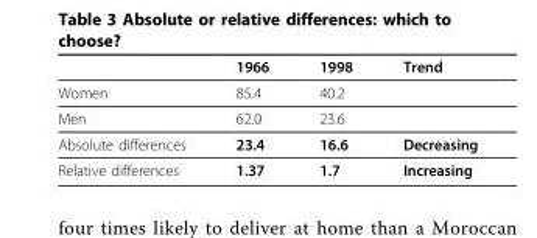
<table><thead><tr><td></td><td>1966</td><td>1998</td><td>Trend</td></tr></thead><tbody><tr><td>Women</td><td>85.4</td><td>40.2</td><td></td></tr><tr><td>Men</td><td>62.0</td><td>23.6</td><td></td></tr><tr><td>Absolute differences</td><td>23.4</td><td>16.6</td><td>Decreasing</td></tr><tr><td>Relative differences</td><td>1.37</td><td>1.7</td><td>Increasing</td></tr></tbody></table>